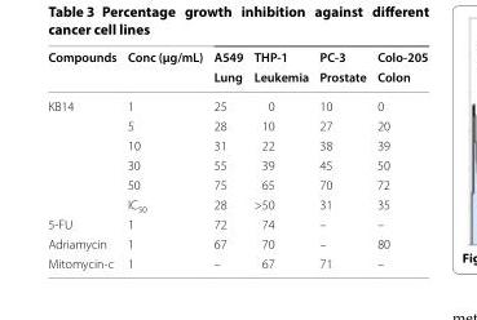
<table><thead><tr><td rowspan="2">Compounds</td><td rowspan="2">Conc (µg/mL)</td><td rowspan="2">A549 Lung</td><td rowspan="2">THP-1 Leukemia</td><td rowspan="2">PC-3 Prostate</td><td rowspan="2">Colo-205 Colon</td></tr><tr></tr></thead><tbody><tr><td rowspan="6">KB14</td><td>1</td><td>25</td><td>0</td><td>10</td><td>0</td></tr><tr><td>5</td><td>28</td><td>10</td><td>27</td><td>20</td></tr><tr><td>10</td><td>31</td><td>22</td><td>38</td><td>39</td></tr><tr><td>30</td><td>55</td><td>39</td><td>45</td><td>50</td></tr><tr><td>50</td><td>75</td><td>65</td><td>70</td><td>72</td></tr><tr><td>IC<sub>50</sub></td><td>28</td><td>&gt;50</td><td>31</td><td>35</td></tr><tr><td>5-FU</td><td>1</td><td>72</td><td>74</td><td>–</td><td>–</td></tr><tr><td>Adriamycin</td><td>1</td><td>67</td><td>70</td><td>–</td><td>80</td></tr><tr><td>Mitomycin-c</td><td>1</td><td>–</td><td>67</td><td>71</td><td>–</td></tr></tbody></table>